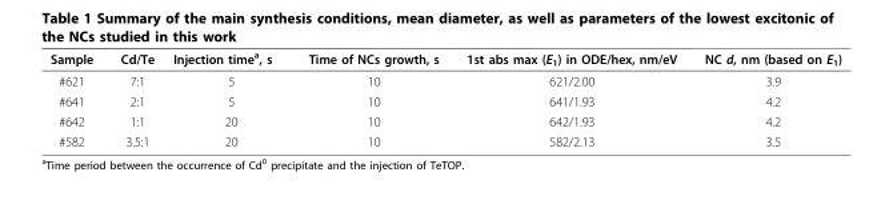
<table><thead><tr><td>Sample</td><td>Cd/Te</td><td>Injection time<sup>a</sup>, s</td><td>Time of NCs growth, s</td><td>1st abs max (E<sub>1</sub>) in ODE/hex, nm/eV</td><td>NC d, nm (based on E<sub>1</sub>)</td></tr></thead><tbody><tr><td>#621</td><td>7:1</td><td>5</td><td>10</td><td>621/2.00</td><td>3.9</td></tr><tr><td>#641</td><td>2:1</td><td>5</td><td>10</td><td>641/1.93</td><td>4.2</td></tr><tr><td>#642</td><td>1:1</td><td>20</td><td>10</td><td>642/1.93</td><td>4.2</td></tr><tr><td>#582</td><td>3.5:1</td><td>20</td><td>10</td><td>582/2.13</td><td>3.5</td></tr></tbody></table>